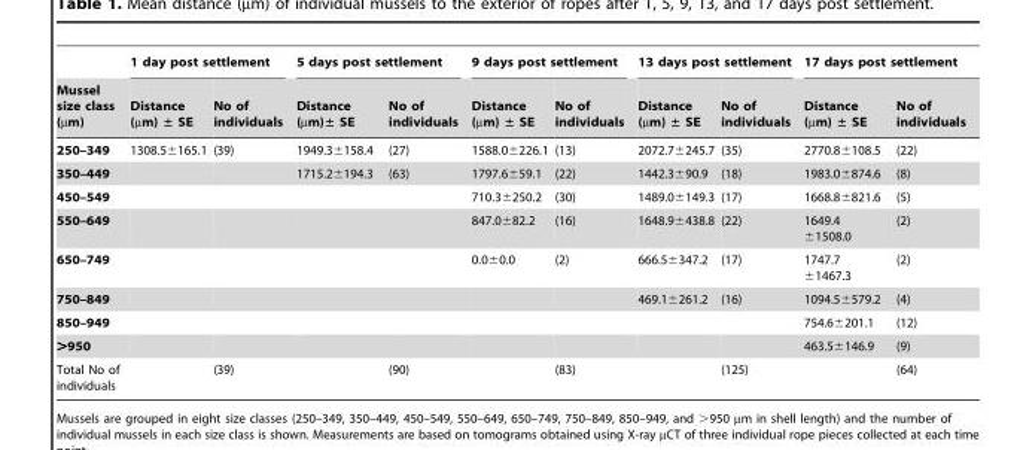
<table><thead><tr><td rowspan="2">Mussel size class (µm)</td><td colspan="2">1 day post settlement</td><td colspan="2">5 days post settlement</td><td colspan="2">9 days post settlement</td><td colspan="2">13 days post settlement</td><td colspan="2">17 days post settlement</td></tr><tr><td>Distance (µm) ± SE</td><td>No of individuals</td><td>Distance (µm)± SE</td><td>No of individuals</td><td>Distance (µm) ± SE</td><td>No of individuals</td><td>Distance (µm) ± SE</td><td>No of individuals</td><td>Distance (µm) ± SE</td><td>No of individuals</td></tr></thead><tbody><tr><td>250–349</td><td>1308.5±165.1</td><td>(39)</td><td>1949.3±158.4</td><td>(27)</td><td>1588.0±226.1</td><td>(13)</td><td>2072.7±245.7</td><td>(35)</td><td>2770.8±108.5</td><td>(22)</td></tr><tr><td>350–449</td><td></td><td></td><td>1715.2±194.3</td><td>(63)</td><td>1797.6±59.1</td><td>(22)</td><td>1442.3±90.9</td><td>(18)</td><td>1983.0±874.6</td><td>(8)</td></tr><tr><td>450–549</td><td></td><td></td><td></td><td></td><td>710.3±250.2</td><td>(30)</td><td>1489.0±149.3</td><td>(17)</td><td>1668.8±821.6</td><td>(5)</td></tr><tr><td>550–649</td><td></td><td></td><td></td><td></td><td>847.0±82.2</td><td>(16)</td><td>1648.9±438.8</td><td>(22)</td><td>1649.4 ±1508.0</td><td>(2)</td></tr><tr><td>650–749</td><td></td><td></td><td></td><td></td><td>0.0±0.0</td><td>(2)</td><td>666.5±347.2</td><td>(17)</td><td>1747.7 ±1467.3</td><td>(2)</td></tr><tr><td>750–849</td><td></td><td></td><td></td><td></td><td></td><td></td><td>469.1±261.2</td><td>(16)</td><td>1094.5±579.2</td><td>(4)</td></tr><tr><td>850–949</td><td></td><td></td><td></td><td></td><td></td><td></td><td></td><td></td><td>754.6±201.1</td><td>(12)</td></tr><tr><td>&gt;950</td><td></td><td></td><td></td><td></td><td></td><td></td><td></td><td></td><td>463.5±146.9</td><td>(9)</td></tr><tr><td>Total No of individuals</td><td></td><td>(39)</td><td></td><td>(90)</td><td></td><td>(83)</td><td></td><td>(125)</td><td></td><td>(64)</td></tr></tbody></table>